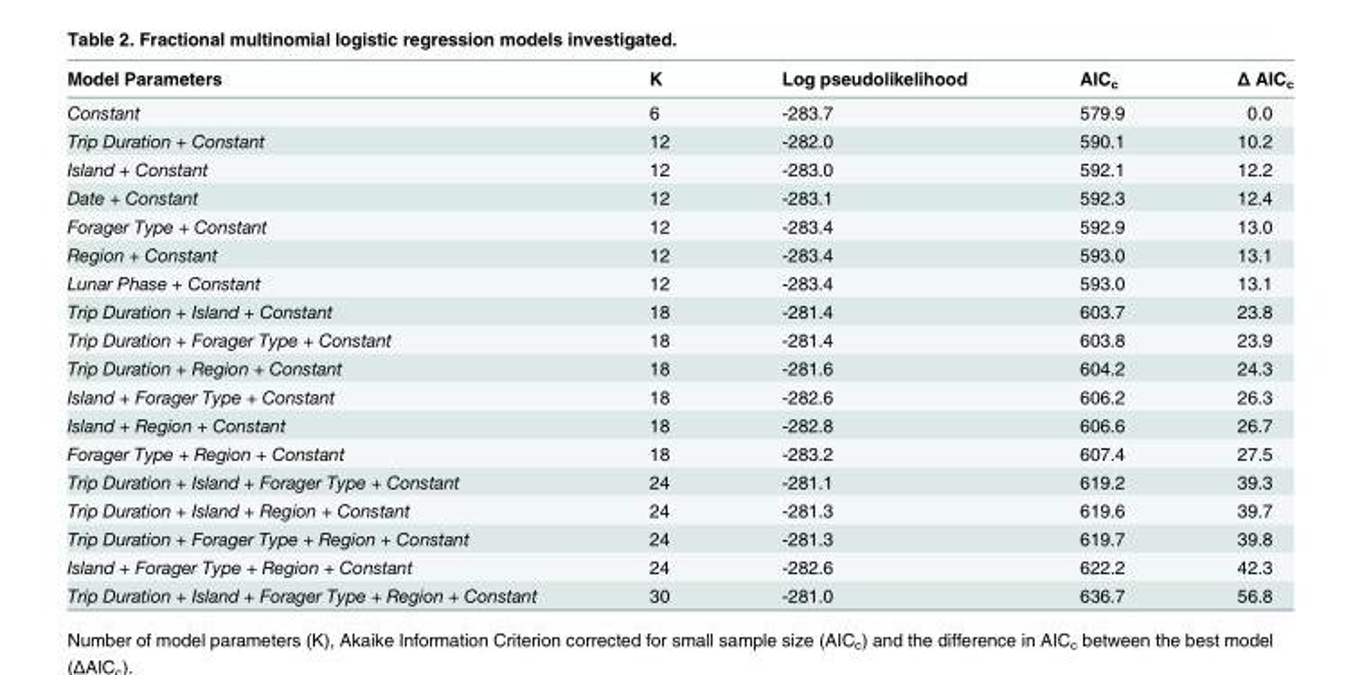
<table><thead><tr><td>Model Parameters</td><td>K</td><td>Log pseudolikelihood</td><td>AIC<sub>c</sub></td><td>Δ AIC<sub>c</sub></td></tr></thead><tbody><tr><td>Constant</td><td>6</td><td>-283.7</td><td>579.9</td><td>0.0</td></tr><tr><td>Trip Duration + Constant</td><td>12</td><td>-282.0</td><td>590.1</td><td>10.2</td></tr><tr><td>Island + Constant</td><td>12</td><td>-283.0</td><td>592.1</td><td>12.2</td></tr><tr><td>Date + Constant</td><td>12</td><td>-283.1</td><td>592.3</td><td>12.4</td></tr><tr><td>Forager Type + Constant</td><td>12</td><td>-283.4</td><td>592.9</td><td>13.0</td></tr><tr><td>Region + Constant</td><td>12</td><td>-283.4</td><td>593.0</td><td>13.1</td></tr><tr><td>Lunar Phase + Constant</td><td>12</td><td>-283.4</td><td>593.0</td><td>13.1</td></tr><tr><td>Trip Duration + Island + Constant</td><td>18</td><td>-281.4</td><td>603.7</td><td>23.8</td></tr><tr><td>Trip Duration + Forager Type + Constant</td><td>18</td><td>-281.4</td><td>603.8</td><td>23.9</td></tr><tr><td>Trip Duration + Region + Constant</td><td>18</td><td>-281.6</td><td>604.2</td><td>24.3</td></tr><tr><td>Island + Forager Type + Constant</td><td>18</td><td>-282.6</td><td>606.2</td><td>26.3</td></tr><tr><td>Island + Region + Constant</td><td>18</td><td>-282.8</td><td>606.6</td><td>26.7</td></tr><tr><td>Forager Type + Region + Constant</td><td>18</td><td>-283.2</td><td>607.4</td><td>27.5</td></tr><tr><td>Trip Duration + Island + Forager Type + Constant</td><td>24</td><td>-281.1</td><td>619.2</td><td>39.3</td></tr><tr><td>Trip Duration + Island + Region + Constant</td><td>24</td><td>-281.3</td><td>619.6</td><td>39.7</td></tr><tr><td>Trip Duration + Forager Type + Region + Constant</td><td>24</td><td>-281.3</td><td>619.7</td><td>39.8</td></tr><tr><td>Island + Forager Type + Region + Constant</td><td>24</td><td>-282.6</td><td>622.2</td><td>42.3</td></tr><tr><td>Trip Duration + Island + Forager Type + Region + Constant</td><td>30</td><td>-281.0</td><td>636.7</td><td>56.8</td></tr></tbody></table>